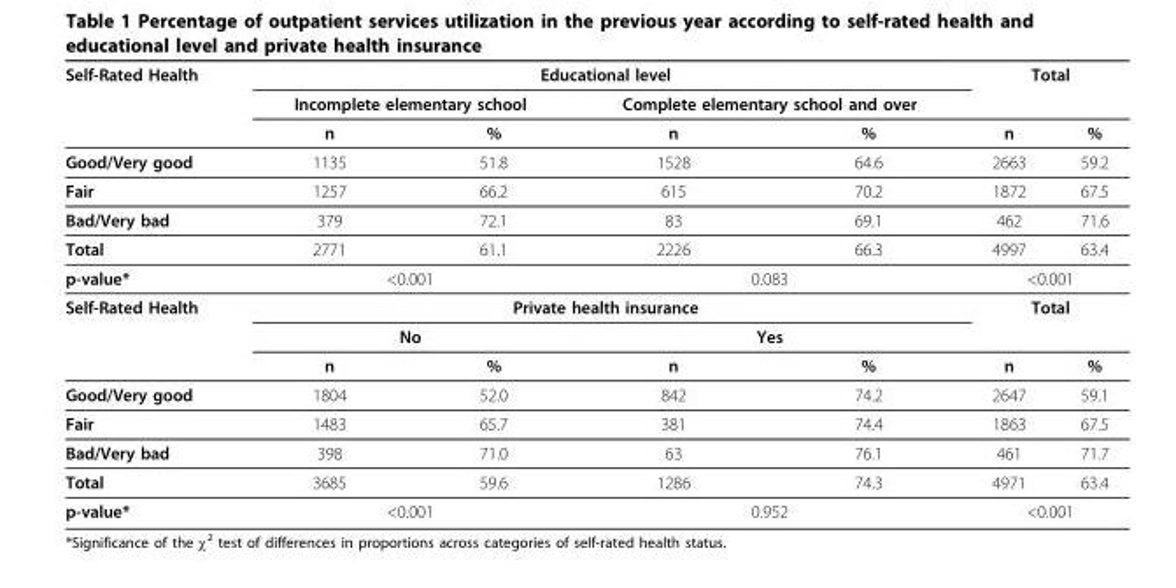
<table><thead><tr><td rowspan="3">Self-Rated Health</td><td colspan="4">Educational level</td><td colspan="2">Total</td></tr><tr><td colspan="2">Incomplete elementary school</td><td colspan="2">Complete elementary school and over</td><td rowspan="2">n</td><td rowspan="2">%</td></tr><tr><td>n</td><td>%</td><td>n</td><td>%</td></tr></thead><tbody><tr><td>Good/Very good</td><td>1135</td><td>51.8</td><td>1528</td><td>64.6</td><td>2663</td><td>59.2</td></tr><tr><td>Fair</td><td>1257</td><td>66.2</td><td>615</td><td>70.2</td><td>1872</td><td>67.5</td></tr><tr><td>Bad/Very bad</td><td>379</td><td>72.1</td><td>83</td><td>69.1</td><td>462</td><td>71.6</td></tr><tr><td>Total</td><td>2771</td><td>61.1</td><td>2226</td><td>66.3</td><td>4997</td><td>63.4</td></tr><tr><td>p-value*</td><td colspan="2">&lt;0.001</td><td colspan="2">0.083</td><td colspan="2">&lt;0.001</td></tr><tr><td rowspan="3">Self-Rated Health</td><td colspan="4">Private health insurance</td><td colspan="2">Total</td></tr><tr><td colspan="2">No</td><td colspan="2">Yes</td><td></td><td></td></tr><tr><td>n</td><td>%</td><td>n</td><td>%</td><td>n</td><td>%</td></tr><tr><td>Good/Very good</td><td>1804</td><td>52.0</td><td>842</td><td>74.2</td><td>2647</td><td>59.1</td></tr><tr><td>Fair</td><td>1483</td><td>65.7</td><td>381</td><td>74.4</td><td>1863</td><td>67.5</td></tr><tr><td>Bad/Very bad</td><td>398</td><td>71.0</td><td>63</td><td>76.1</td><td>461</td><td>71.7</td></tr><tr><td>Total</td><td>3685</td><td>59.6</td><td>1286</td><td>74.3</td><td>4971</td><td>63.4</td></tr><tr><td>p-value*</td><td colspan="2">&lt;0.001</td><td colspan="2">0.952</td><td colspan="2">&lt;0.001</td></tr></tbody></table>